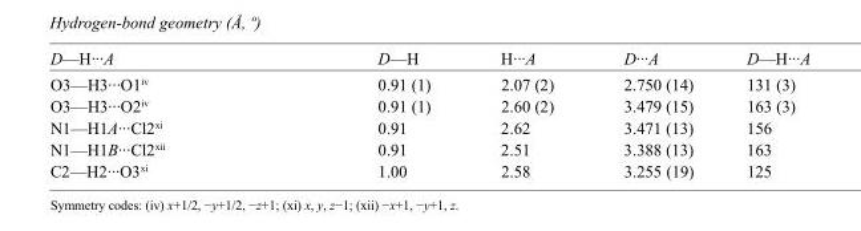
<table><tbody><tr><td>D—H···A</td><td>D—H</td><td>H···A</td><td>D···A</td><td>D—H···A</td></tr><tr><td>O3—H3···O1<sup>iv</sup></td><td>0.91 (1)</td><td>2.07 (2)</td><td>2.750 (14)</td><td>131 (3)</td></tr><tr><td>O3—H3···O2<sup>iv</sup></td><td>0.91 (1)</td><td>2.60 (2)</td><td>3.479 (15)</td><td>163 (3)</td></tr><tr><td>N1—H1A···Cl2<sup>xi</sup></td><td>0.91</td><td>2.62</td><td>3.471 (13)</td><td>156</td></tr><tr><td>N1—H1B···Cl2<sup>xii</sup></td><td>0.91</td><td>2.51</td><td>3.388 (13)</td><td>163</td></tr><tr><td>C2—H2···O3<sup>xi</sup></td><td>1.00</td><td>2.58</td><td>3.255 (19)</td><td>125</td></tr></tbody></table>